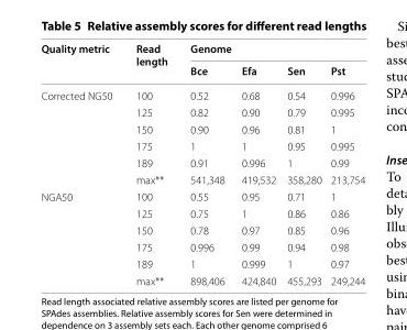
<table><thead><tr><td rowspan="2">Quality metric</td><td rowspan="2">Read length</td><td colspan="4">Genome</td></tr><tr><td>Bce</td><td>Efa</td><td>Sen</td><td>Pst</td></tr></thead><tbody><tr><td rowspan="6">Corrected NG50</td><td>100</td><td>0.52</td><td>0.68</td><td>0.54</td><td>0.996</td></tr><tr><td>125</td><td>0.82</td><td>0.90</td><td>0.79</td><td>0.995</td></tr><tr><td>150</td><td>0.90</td><td>0.96</td><td>0.81</td><td>1</td></tr><tr><td>175</td><td>1</td><td>1</td><td>0.95</td><td>0.995</td></tr><tr><td>189</td><td>0.91</td><td>0.996</td><td>1</td><td>0.99</td></tr><tr><td>max**</td><td>541,348</td><td>419,532</td><td>358,280</td><td>213,754</td></tr><tr><td rowspan="6">NGA50</td><td>100</td><td>0.55</td><td>0.95</td><td>0.71</td><td>1</td></tr><tr><td>125</td><td>0.75</td><td>1</td><td>0.86</td><td>0.86</td></tr><tr><td>150</td><td>0.78</td><td>0.97</td><td>0.85</td><td>0.96</td></tr><tr><td>175</td><td>0.996</td><td>0.99</td><td>0.94</td><td>0.98</td></tr><tr><td>189</td><td>1</td><td>0.999</td><td>1</td><td>0.97</td></tr><tr><td>max**</td><td>898,406</td><td>424,840</td><td>455,293</td><td>249,244</td></tr></tbody></table>